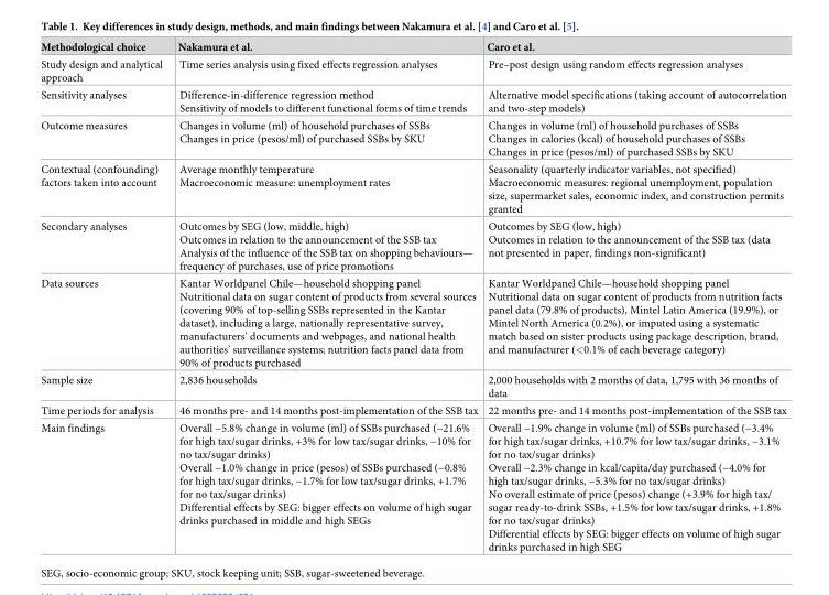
<table><thead><tr><td>Methodological choice</td><td>Nakamura et al.</td><td>Caro et al.</td></tr></thead><tbody><tr><td>Study design and analytical approach</td><td>Time series analysis using fixed effects regression analyses</td><td>Pre–post design using random effects regression analyses</td></tr><tr><td>Sensitivity analyses</td><td>Difference-in-difference regression method Sensitivity of models to different functional forms of time trends</td><td>Alternative model specifications (taking account of autocorrelation and two-step models)</td></tr><tr><td>Outcome measures</td><td>Changes in volume (ml) of household purchases of SSBs Changes in price (pesos/ml) of purchased SSBs by SKU</td><td>Changes in volume (ml) of household purchases of SSBs Changes in calories (kcal) of household purchases of SSBs Changes in price (pesos/ml) of purchased SSBs by SKU</td></tr><tr><td>Contextual (confounding) factors taken into account</td><td>Average monthly temperature Macroeconomic measure: unemployment rates</td><td>Seasonality (quarterly indicator variables, not specified) Macroeconomic measures: regional unemployment, population size, supermarket sales, economic index, and construction permits granted</td></tr><tr><td>Secondary analyses</td><td>Outcomes by SEG (low, middle, high) Outcomes in relation to the announcement of the SSB tax Analysis of the influence of the SSB tax on shopping behaviours— frequency of purchases, use of price promotions</td><td>Outcomes by SEG (low, high) Outcomes in relation to the announcement of the SSB tax (data not presented in paper, findings non-significant)</td></tr><tr><td>Data sources</td><td>Kantar Worldpanel Chile—household shopping panel Nutritional data on sugar content of products from several sources (covering 90% of top-selling SSBs represented in the Kantar dataset), including a large, nationally representative survey, manufacturers’ documents and webpages, and national health authorities’ surveillance systems; nutrition facts panel data from 90% of products purchased</td><td>Kantar Worldpanel Chile—household shopping panel Nutritional data on sugar content of products from nutrition facts panel data (79.8% of products), Mintel Latin America (19.9%), or Mintel North America (0.2%), or imputed using a systematic match based on sister products using package description, brand, and manufacturer (&lt;0.1% of each beverage category)</td></tr><tr><td>Sample size</td><td>2,836 households</td><td>2,000 households with 2 months of data, 1,795 with 36 months of data</td></tr><tr><td>Time periods for analysis</td><td>46 months pre- and 14 months post-implementation of the SSB tax</td><td>22 months pre- and 14 months post-implementation of the SSB tax</td></tr><tr><td>Main findings</td><td>Overall −5.8% change in volume (ml) of SSBs purchased (−21.6% for high tax/sugar drinks, +3% for low tax/sugar drinks, −10% for no tax/sugar drinks) Overall −1.0% change in price (pesos) of SSBs purchased (−0.8% for high tax/sugar drinks, −1.7% for low tax/sugar drinks, +1.7% for no tax/sugar drinks) Differential effects by SEG: bigger effects on volume of high sugar drinks purchased in middle and high SEGs</td><td>Overall −1.9% change in volume (ml) of SSBs purchased (−3.4% for high tax/sugar drinks, +10.7% for low tax/sugar drinks, −3.1% for no tax/sugar drinks) Overall −2.3% change in kcal/capita/day purchased (−4.0% for high tax/sugar drinks, −5.3% for no tax/sugar drinks) No overall estimate of price (pesos) change (+3.9% for high tax/ sugar ready-to-drink SSBs, +1.5% for low tax/sugar drinks, +1.8% for no tax/sugar drinks) Differential effects by SEG: bigger effects on volume of high sugar drinks purchased in high SEG</td></tr></tbody></table>